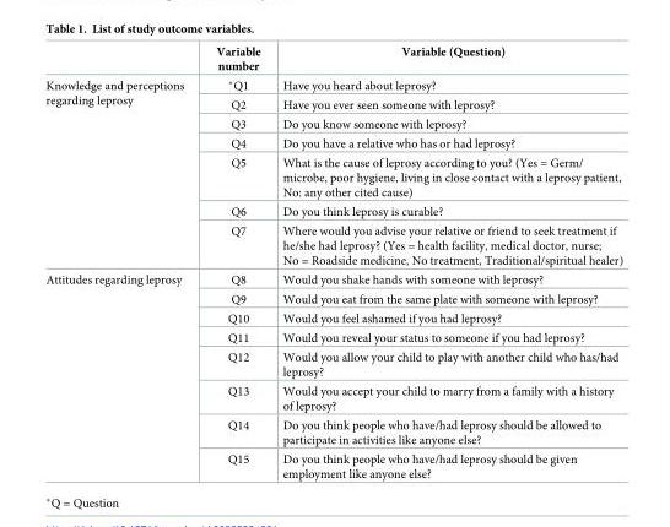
<table><thead><tr><td></td><td>Variable number</td><td>Variable (Question)</td></tr></thead><tbody><tr><td rowspan="7">Knowledge and perceptions regarding leprosy</td><td>*Q1</td><td>Have you heard about leprosy?</td></tr><tr><td>Q2</td><td>Have you ever seen someone with leprosy?</td></tr><tr><td>Q3</td><td>Do you know someone with leprosy?</td></tr><tr><td>Q4</td><td>Do you have a relative who has or had leprosy?</td></tr><tr><td>Q5</td><td>What is the cause of leprosy according to you? (Yes = Germ/ microbe, poor hygiene, living in close contact with a leprosy patient, No: any other cited cause)</td></tr><tr><td>Q6</td><td>Do you think leprosy is curable?</td></tr><tr><td>Q7</td><td>Where would you advise your relative or friend to seek treatment if he/she had leprosy? (Yes = health facility, medical doctor, nurse; No = Roadside medicine, No treatment, Traditional/spiritual healer)</td></tr><tr><td rowspan="8">Attitudes regarding leprosy</td><td>Q8</td><td>Would you shake hands with someone with leprosy?</td></tr><tr><td>Q9</td><td>Would you eat from the same plate with someone with leprosy?</td></tr><tr><td>Q10</td><td>Would you feel ashamed if you had leprosy?</td></tr><tr><td>Q11</td><td>Would you reveal your status to someone if you had leprosy?</td></tr><tr><td>Q12</td><td>Would you allow your child to play with another child who has/had leprosy?</td></tr><tr><td>Q13</td><td>Would you accept your child to marry from a family with a history of leprosy?</td></tr><tr><td>Q14</td><td>Do you think people who have/had leprosy should be allowed to participate in activities like anyone else?</td></tr><tr><td>Q15</td><td>Do you think people who have/had leprosy should be given employment like anyone else?</td></tr></tbody></table>